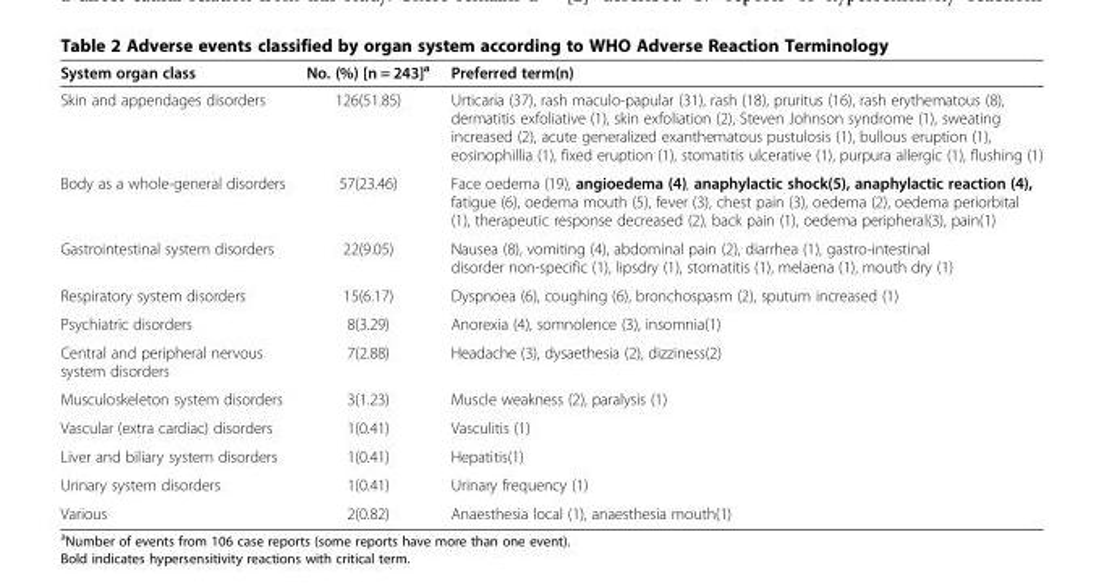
<table><thead><tr><td>System organ class</td><td>No. (%) [n = 243]<sup>a</sup></td><td>Preferred term(n)</td></tr></thead><tbody><tr><td>Skin and appendages disorders</td><td>126(51.85)</td><td>Urticaria (37), rash maculo-papular (31), rash (18), pruritus (16), rash erythematous (8), dermatitis exfoliative (1), skin exfoliation (2), Steven Johnson syndrome (1), sweating increased (2), acute generalized exanthematous pustulosis (1), bullous eruption (1), eosinophillia (1), fixed eruption (1), stomatitis ulcerative (1), purpura allergic (1), flushing (1)</td></tr><tr><td>Body as a whole-general disorders</td><td>57(23.46)</td><td>Face oedema (19), angioedema (4), anaphylactic shock(5), anaphylactic reaction (4), fatigue (6), oedema mouth (5), fever (3), chest pain (3), oedema (2), oedema periorbital (1), therapeutic response decreased (2), back pain (1), oedema peripheral(3), pain(1)</td></tr><tr><td>Gastrointestinal system disorders</td><td>22(9.05)</td><td>Nausea (8), vomiting (4), abdominal pain (2), diarrhea (1), gastro-intestinal disorder non-specific (1), lipsdry (1), stomatitis (1), melaena (1), mouth dry (1)</td></tr><tr><td>Respiratory system disorders</td><td>15(6.17)</td><td>Dyspnoea (6), coughing (6), bronchospasm (2), sputum increased (1)</td></tr><tr><td>Psychiatric disorders</td><td>8(3.29)</td><td>Anorexia (4), somnolence (3), insomnia(1)</td></tr><tr><td>Central and peripheral nervous system disorders</td><td>7(2.88)</td><td>Headache (3), dysaethesia (2), dizziness(2)</td></tr><tr><td>Musculoskeleton system disorders</td><td>3(1.23)</td><td>Muscle weakness (2), paralysis (1)</td></tr><tr><td>Vascular (extra cardiac) disorders</td><td>1(0.41)</td><td>Vasculitis (1)</td></tr><tr><td>Liver and biliary system disorders</td><td>1(0.41)</td><td>Hepatitis(1)</td></tr><tr><td>Urinary system disorders</td><td>1(0.41)</td><td>Urinary frequency (1)</td></tr><tr><td>Various</td><td>2(0.82)</td><td>Anaesthesia local (1), anaesthesia mouth(1)</td></tr></tbody></table>